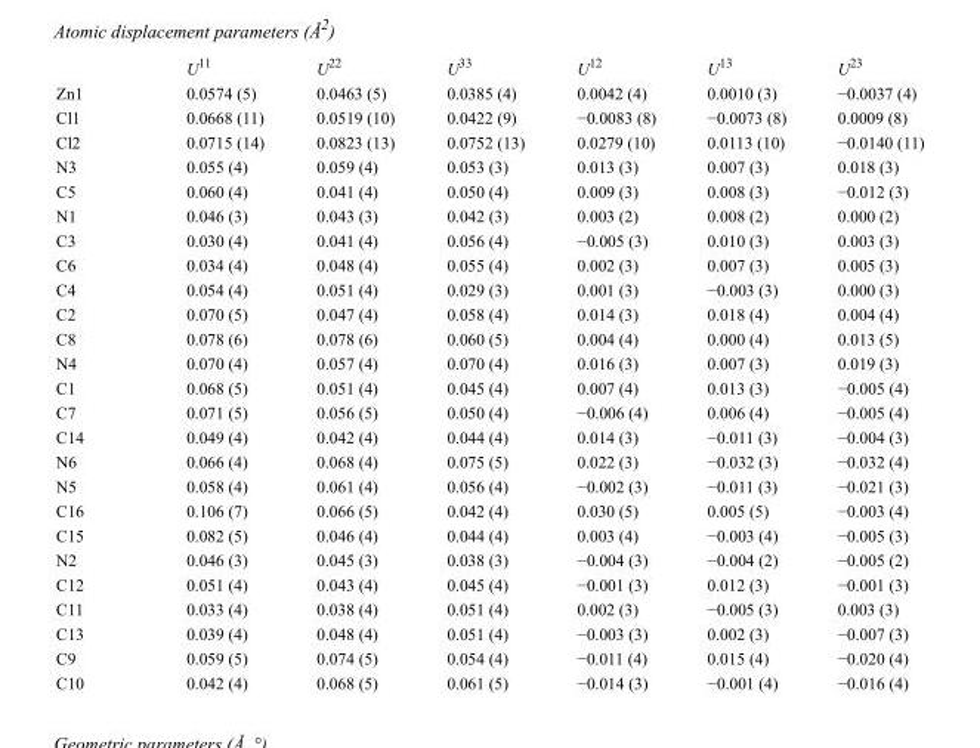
<table><thead><tr><td></td><td>U<sup>11</sup></td><td>U<sup>22</sup></td><td>U<sup>33</sup></td><td>U<sup>12</sup></td><td>U<sup>13</sup></td><td>U<sup>23</sup></td></tr></thead><tbody><tr><td>Zn1</td><td>0.0574 (5)</td><td>0.0463 (5)</td><td>0.0385 (4)</td><td>0.0042 (4)</td><td>0.0010 (3)</td><td>−0.0037 (4)</td></tr><tr><td>Cl1</td><td>0.0668 (11)</td><td>0.0519 (10)</td><td>0.0422 (9)</td><td>−0.0083 (8)</td><td>−0.0073 (8)</td><td>0.0009 (8)</td></tr><tr><td>Cl2</td><td>0.0715 (14)</td><td>0.0823 (13)</td><td>0.0752 (13)</td><td>0.0279 (10)</td><td>0.0113 (10)</td><td>−0.0140 (11)</td></tr><tr><td>N3</td><td>0.055 (4)</td><td>0.059 (4)</td><td>0.053 (3)</td><td>0.013 (3)</td><td>0.007 (3)</td><td>0.018 (3)</td></tr><tr><td>C5</td><td>0.060 (4)</td><td>0.041 (4)</td><td>0.050 (4)</td><td>0.009 (3)</td><td>0.008 (3)</td><td>−0.012 (3)</td></tr><tr><td>N1</td><td>0.046 (3)</td><td>0.043 (3)</td><td>0.042 (3)</td><td>0.003 (2)</td><td>0.008 (2)</td><td>0.000 (2)</td></tr><tr><td>C3</td><td>0.030 (4)</td><td>0.041 (4)</td><td>0.056 (4)</td><td>−0.005 (3)</td><td>0.010 (3)</td><td>0.003 (3)</td></tr><tr><td>C6</td><td>0.034 (4)</td><td>0.048 (4)</td><td>0.055 (4)</td><td>0.002 (3)</td><td>0.007 (3)</td><td>0.005 (3)</td></tr><tr><td>C4</td><td>0.054 (4)</td><td>0.051 (4)</td><td>0.029 (3)</td><td>0.001 (3)</td><td>−0.003 (3)</td><td>0.000 (3)</td></tr><tr><td>C2</td><td>0.070 (5)</td><td>0.047 (4)</td><td>0.058 (4)</td><td>0.014 (3)</td><td>0.018 (4)</td><td>0.004 (4)</td></tr><tr><td>C8</td><td>0.078 (6)</td><td>0.078 (6)</td><td>0.060 (5)</td><td>0.004 (4)</td><td>0.000 (4)</td><td>0.013 (5)</td></tr><tr><td>N4</td><td>0.070 (4)</td><td>0.057 (4)</td><td>0.070 (4)</td><td>0.016 (3)</td><td>0.007 (3)</td><td>0.019 (3)</td></tr><tr><td>C1</td><td>0.068 (5)</td><td>0.051 (4)</td><td>0.045 (4)</td><td>0.007 (4)</td><td>0.013 (3)</td><td>−0.005 (4)</td></tr><tr><td>C7</td><td>0.071 (5)</td><td>0.056 (5)</td><td>0.050 (4)</td><td>−0.006 (4)</td><td>0.006 (4)</td><td>−0.005 (4)</td></tr><tr><td>C14</td><td>0.049 (4)</td><td>0.042 (4)</td><td>0.044 (4)</td><td>0.014 (3)</td><td>−0.011 (3)</td><td>−0.004 (3)</td></tr><tr><td>N6</td><td>0.066 (4)</td><td>0.068 (4)</td><td>0.075 (5)</td><td>0.022 (3)</td><td>−0.032 (3)</td><td>−0.032 (4)</td></tr><tr><td>N5</td><td>0.058 (4)</td><td>0.061 (4)</td><td>0.056 (4)</td><td>−0.002 (3)</td><td>−0.011 (3)</td><td>−0.021 (3)</td></tr><tr><td>C16</td><td>0.106 (7)</td><td>0.066 (5)</td><td>0.042 (4)</td><td>0.030 (5)</td><td>0.005 (5)</td><td>−0.003 (4)</td></tr><tr><td>C15</td><td>0.082 (5)</td><td>0.046 (4)</td><td>0.044 (4)</td><td>0.003 (4)</td><td>−0.003 (4)</td><td>−0.005 (3)</td></tr><tr><td>N2</td><td>0.046 (3)</td><td>0.045 (3)</td><td>0.038 (3)</td><td>−0.004 (3)</td><td>−0.004 (2)</td><td>−0.005 (2)</td></tr><tr><td>C12</td><td>0.051 (4)</td><td>0.043 (4)</td><td>0.045 (4)</td><td>−0.001 (3)</td><td>0.012 (3)</td><td>−0.001 (3)</td></tr><tr><td>C11</td><td>0.033 (4)</td><td>0.038 (4)</td><td>0.051 (4)</td><td>0.002 (3)</td><td>−0.005 (3)</td><td>0.003 (3)</td></tr><tr><td>C13</td><td>0.039 (4)</td><td>0.048 (4)</td><td>0.051 (4)</td><td>−0.003 (3)</td><td>0.002 (3)</td><td>−0.007 (3)</td></tr><tr><td>C9</td><td>0.059 (5)</td><td>0.074 (5)</td><td>0.054 (4)</td><td>−0.011 (4)</td><td>0.015 (4)</td><td>−0.020 (4)</td></tr><tr><td>C10</td><td>0.042 (4)</td><td>0.068 (5)</td><td>0.061 (5)</td><td>−0.014 (3)</td><td>−0.001 (4)</td><td>−0.016 (4)</td></tr></tbody></table>